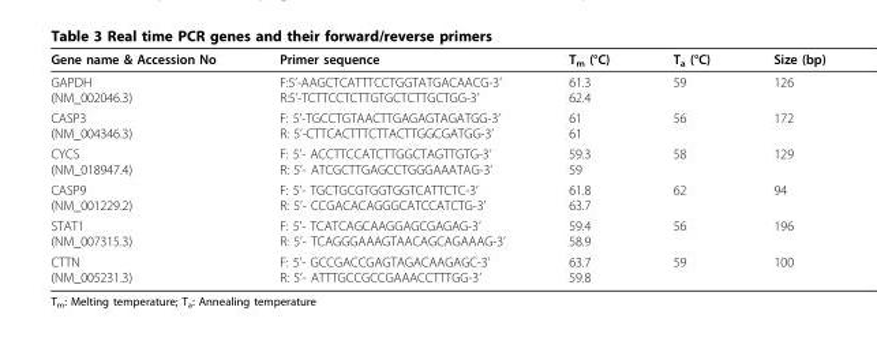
<table><thead><tr><td>Gene name &amp; Accession No</td><td>Primer sequence</td><td>T<sub>m</sub> (°C)</td><td>T<sub>a</sub> (°C)</td><td>Size (bp)</td></tr></thead><tbody><tr><td>GAPDH (NM_002046.3)</td><td>F:5’-AAGCTCATTTCCTGGTATGACAACG-3’ R:5’-TCTTCCTCTTGTGCTCTTGCTGG-3’</td><td>61.3 62.4</td><td>59</td><td>126</td></tr><tr><td>CASP3 (NM_004346.3)</td><td>F: 5’-TGCCTGTAACTTGAGAGTAGATGG-3’ R: 5’-CTTCACTTTCTTACTTGGCGATGG-3’</td><td>61 61</td><td>56</td><td>172</td></tr><tr><td>CYCS (NM_018947.4)</td><td>F: 5’- ACCTTCCATCTTGGCTAGTTGTG-3’ R: 5’- ATCGCTTGAGCCTGGGAAATAG-3’</td><td>59.3 59</td><td>58</td><td>129</td></tr><tr><td>CASP9 (NM_001229.2)</td><td>F: 5’- TGCTGCGTGGTGGTCATTCTC-3’ R: 5’- CCGACACAGGGCATCCATCTG-3’</td><td>61.8 63.7</td><td>62</td><td>94</td></tr><tr><td>STAT1 (NM_007315.3)</td><td>F: 5’- TCATCAGCAAGGAGCGAGAG-3’ R: 5’- TCAGGGAAAGTAACAGCAGAAAG-3’</td><td>59.4 58.9</td><td>56</td><td>196</td></tr><tr><td>CTTN (NM_005231.3)</td><td>F: 5’- GCCGACCGAGTAGACAAGAGC-3’ R: 5’- ATTTGCCGCCGAAACCTTTGG-3’</td><td>63.7 59.8</td><td>59</td><td>100</td></tr></tbody></table>